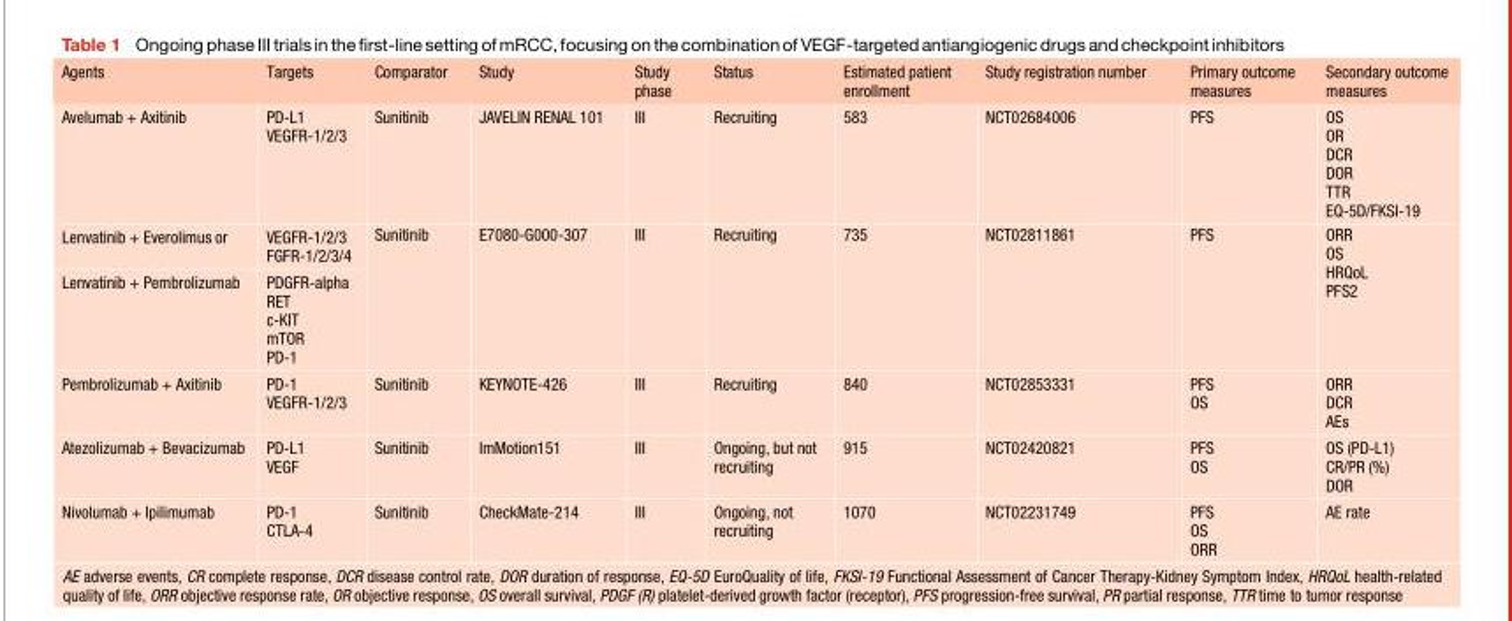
<table><thead><tr><td>Agents</td><td>Targets</td><td>Comparator</td><td>Study</td><td>Study phase</td><td>Status</td><td>Estimated patient enrollment</td><td>Study registration number</td><td>Primary outcome measures</td><td>Secondary outcome measures</td></tr></thead><tbody><tr><td>Avelumab + Axitinib</td><td>PD-L1 VEGFR-1/2/3</td><td>Sunitinib</td><td>JAVELIN RENAL 101</td><td>III</td><td>Recruiting</td><td>583</td><td>NCT02684006</td><td>PFS</td><td>OS OR DCR DOR TTR EQ-5D/FKSI-19</td></tr><tr><td>Lenvatinib + Everolimus or</td><td>VEGFR-1/2/3 FGFR-1/2/3/4</td><td rowspan="2">Sunitinib</td><td rowspan="2">E7080-G000-307</td><td rowspan="2">III</td><td rowspan="2">Recruiting</td><td rowspan="2">735</td><td rowspan="2">NCT02811861</td><td rowspan="2">PFS</td><td rowspan="2">ORR OS HRQoL PFS2</td></tr><tr><td>Lenvatinib + Pembrolizumab</td><td>PDGFR-alpha RET c-KIT mTOR PD-1</td></tr><tr><td>Pembrolizumab + Axitinib</td><td>PD-1 VEGFR-1/2/3</td><td>Sunitinib</td><td>KEYNOTE-426</td><td>III</td><td>Recruiting</td><td>840</td><td>NCT02853331</td><td>PFS OS</td><td>ORR DCR AEs</td></tr><tr><td>Atezolizumab + Bevacizumab</td><td>PD-L1 VEGF</td><td>Sunitinib</td><td>ImMotion151</td><td>III</td><td>Ongoing, but not recruiting</td><td>915</td><td>NCT02420821</td><td>PFS OS</td><td>OS (PD-L1) CR/PR (%) DOR</td></tr><tr><td>Nivolumab + Ipilimumab</td><td>PD-1 CTLA-4</td><td>Sunitinib</td><td>CheckMate-214</td><td>III</td><td>Ongoing, not recruiting</td><td>1070</td><td>NCT02231749</td><td>PFS OS ORR</td><td>AE rate</td></tr></tbody></table>